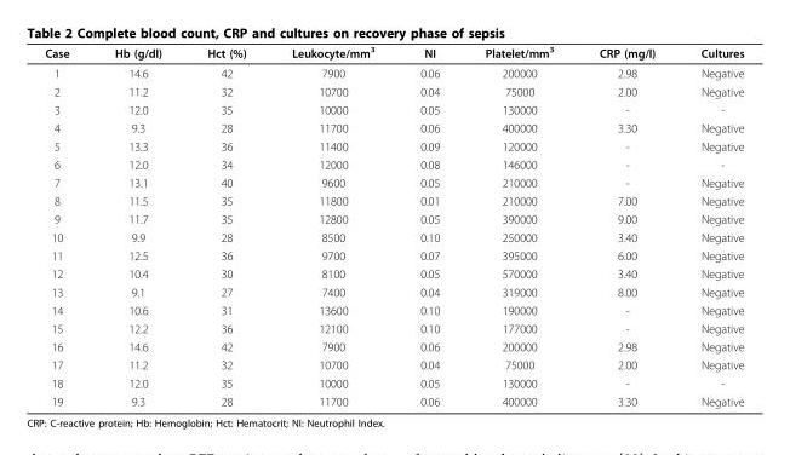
<table><thead><tr><td>Case</td><td>Hb (g/dl)</td><td>Hct (%)</td><td>Leukocyte/mm<sup>3</sup></td><td>NI</td><td>Platelet/mm<sup>3</sup></td><td>CRP (mg/l)</td><td>Cultures</td></tr></thead><tbody><tr><td>1</td><td>14.6</td><td>42</td><td>7900</td><td>0.06</td><td>200000</td><td>2.98</td><td>Negative</td></tr><tr><td>2</td><td>11.2</td><td>32</td><td>10700</td><td>0.04</td><td>75000</td><td>2.00</td><td>Negative</td></tr><tr><td>3</td><td>12.0</td><td>35</td><td>10000</td><td>0.05</td><td>130000</td><td>-</td><td>-</td></tr><tr><td>4</td><td>9.3</td><td>28</td><td>11700</td><td>0.06</td><td>400000</td><td>3.30</td><td>Negative</td></tr><tr><td>5</td><td>13.3</td><td>36</td><td>11400</td><td>0.09</td><td>120000</td><td>-</td><td>Negative</td></tr><tr><td>6</td><td>12.0</td><td>34</td><td>12000</td><td>0.08</td><td>146000</td><td>-</td><td>-</td></tr><tr><td>7</td><td>13.1</td><td>40</td><td>9600</td><td>0.05</td><td>210000</td><td>-</td><td>Negative</td></tr><tr><td>8</td><td>11.5</td><td>35</td><td>11800</td><td>0.01</td><td>210000</td><td>7.00</td><td>Negative</td></tr><tr><td>9</td><td>11.7</td><td>35</td><td>12800</td><td>0.05</td><td>390000</td><td>9.00</td><td>Negative</td></tr><tr><td>10</td><td>9.9</td><td>28</td><td>8500</td><td>0.10</td><td>250000</td><td>3.40</td><td>Negative</td></tr><tr><td>11</td><td>12.5</td><td>36</td><td>9700</td><td>0.07</td><td>395000</td><td>6.00</td><td>Negative</td></tr><tr><td>12</td><td>10.4</td><td>30</td><td>8100</td><td>0.05</td><td>570000</td><td>3.40</td><td>Negative</td></tr><tr><td>13</td><td>9.1</td><td>27</td><td>7400</td><td>0.04</td><td>319000</td><td>8.00</td><td>Negative</td></tr><tr><td>14</td><td>10.6</td><td>31</td><td>13600</td><td>0.10</td><td>190000</td><td>-</td><td>Negative</td></tr><tr><td>15</td><td>12.2</td><td>36</td><td>12100</td><td>0.10</td><td>177000</td><td>-</td><td>Negative</td></tr><tr><td>16</td><td>14.6</td><td>42</td><td>7900</td><td>0.06</td><td>200000</td><td>2.98</td><td>Negative</td></tr><tr><td>17</td><td>11.2</td><td>32</td><td>10700</td><td>0.04</td><td>75000</td><td>2.00</td><td>Negative</td></tr><tr><td>18</td><td>12.0</td><td>35</td><td>10000</td><td>0.05</td><td>130000</td><td>-</td><td>-</td></tr><tr><td>19</td><td>9.3</td><td>28</td><td>11700</td><td>0.06</td><td>400000</td><td>3.30</td><td>Negative</td></tr></tbody></table>